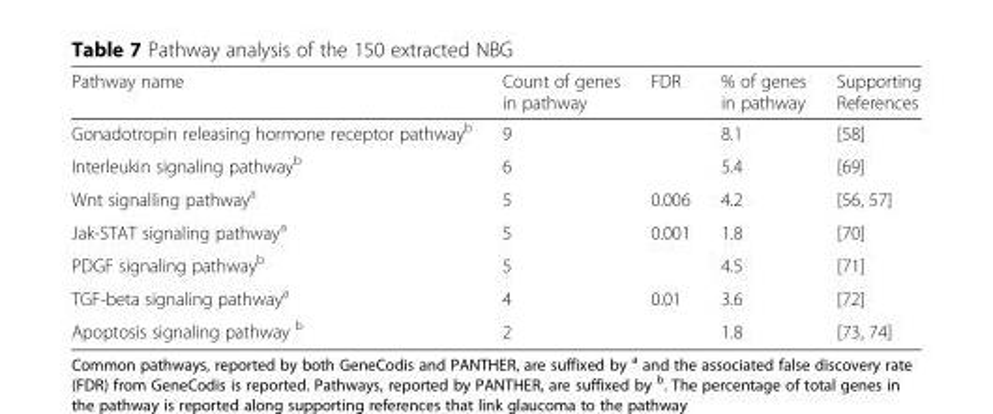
<table><thead><tr><td>Pathway name</td><td>Count of genes in pathway</td><td>FDR</td><td>% of genes in pathway</td><td>Supporting References</td></tr></thead><tbody><tr><td>Gonadotropin releasing hormone receptor pathway<sup>b</sup></td><td>9</td><td></td><td>8.1</td><td>[58]</td></tr><tr><td>Interleukin signaling pathway<sup>b</sup></td><td>6</td><td></td><td>5.4</td><td>[69]</td></tr><tr><td>Wnt signalling pathway<sup>a</sup></td><td>5</td><td>0.006</td><td>4.2</td><td>[56, 57]</td></tr><tr><td>Jak-STAT signaling pathway<sup>a</sup></td><td>5</td><td>0.001</td><td>1.8</td><td>[70]</td></tr><tr><td>PDGF signaling pathway<sup>b</sup></td><td>5</td><td></td><td>4.5</td><td>[71]</td></tr><tr><td>TGF-beta signaling pathway<sup>a</sup></td><td>4</td><td>0.01</td><td>3.6</td><td>[72]</td></tr><tr><td>Apoptosis signaling pathway <sup>b</sup></td><td>2</td><td></td><td>1.8</td><td>[73, 74]</td></tr></tbody></table>